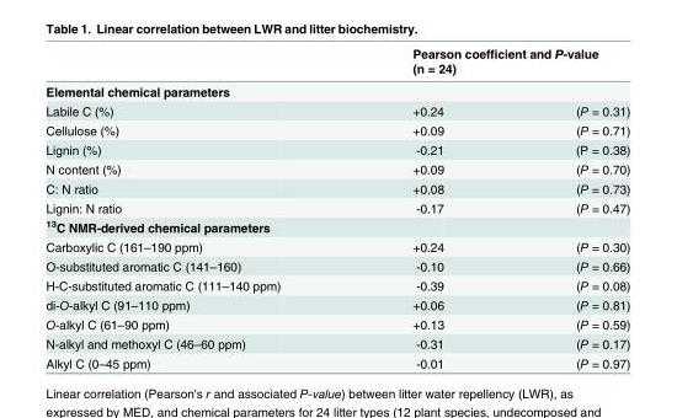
<table><thead><tr><td rowspan="2">Elemental chemical parameters</td><td colspan="2">Pearson coefficient and P-value (n = 24)</td></tr><tr><td></td><td></td></tr></thead><tbody><tr><td>Labile C (%)</td><td>+0.24</td><td>(P = 0.31)</td></tr><tr><td>Cellulose (%)</td><td>+0.09</td><td>(P = 0.71)</td></tr><tr><td>Lignin (%)</td><td>-0.21</td><td>(P = 0.38)</td></tr><tr><td>N content (%)</td><td>+0.09</td><td>(P = 0.70)</td></tr><tr><td>C: N ratio</td><td>+0.08</td><td>(P = 0.73)</td></tr><tr><td>Lignin: N ratio</td><td>-0.17</td><td>(P = 0.47)</td></tr><tr><td colspan="3"><sup>13</sup>C NMR-derived chemical parameters</td></tr><tr><td>Carboxylic C (161–190 ppm)</td><td>+0.24</td><td>(P = 0.30)</td></tr><tr><td>O-substituted aromatic C (141–160)</td><td>-0.10</td><td>(P = 0.66)</td></tr><tr><td>H-C-substituted aromatic C (111–140 ppm)</td><td>-0.39</td><td>(P = 0.08)</td></tr><tr><td>di-O-alkyl C (91–110 ppm)</td><td>+0.06</td><td>(P = 0.81)</td></tr><tr><td>O-alkyl C (61–90 ppm)</td><td>+0.13</td><td>(P = 0.59)</td></tr><tr><td>N-alkyl and methoxyl C (46–60 ppm)</td><td>-0.31</td><td>(P = 0.17)</td></tr><tr><td>Alkyl C (0–45 ppm)</td><td>-0.01</td><td>(P = 0.97)</td></tr></tbody></table>